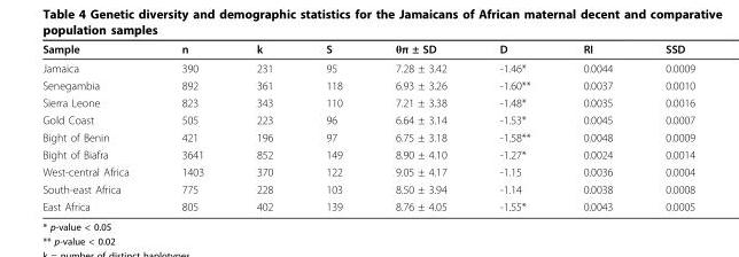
<table><thead><tr><td>Sample</td><td>n</td><td>k</td><td>S</td><td>θπ ± SD</td><td>D</td><td>RI</td><td>SSD</td></tr></thead><tbody><tr><td>Jamaica</td><td>390</td><td>231</td><td>95</td><td>7.28 ± 3.42</td><td>-1.46*</td><td>0.0044</td><td>0.0009</td></tr><tr><td>Senegambia</td><td>892</td><td>361</td><td>118</td><td>6.93 ± 3.26</td><td>-1.60**</td><td>0.0037</td><td>0.0010</td></tr><tr><td>Sierra Leone</td><td>823</td><td>343</td><td>110</td><td>7.21 ± 3.38</td><td>-1.48*</td><td>0.0035</td><td>0.0016</td></tr><tr><td>Gold Coast</td><td>505</td><td>223</td><td>96</td><td>6.64 ± 3.14</td><td>-1.53*</td><td>0.0045</td><td>0.0007</td></tr><tr><td>Bight of Benin</td><td>421</td><td>196</td><td>97</td><td>6.75 ± 3.18</td><td>-1.58**</td><td>0.0048</td><td>0.0009</td></tr><tr><td>Bight of Biafra</td><td>3641</td><td>852</td><td>149</td><td>8.90 ± 4.10</td><td>-1.27*</td><td>0.0024</td><td>0.0014</td></tr><tr><td>West-central Africa</td><td>1403</td><td>370</td><td>122</td><td>9.05 ± 4.17</td><td>-1.15</td><td>0.0036</td><td>0.0004</td></tr><tr><td>South-east Africa</td><td>775</td><td>228</td><td>103</td><td>8.50 ± 3.94</td><td>-1.14</td><td>0.0038</td><td>0.0008</td></tr><tr><td>East Africa</td><td>805</td><td>402</td><td>139</td><td>8.76 ± 4.05</td><td>-1.55*</td><td>0.0043</td><td>0.0005</td></tr></tbody></table>